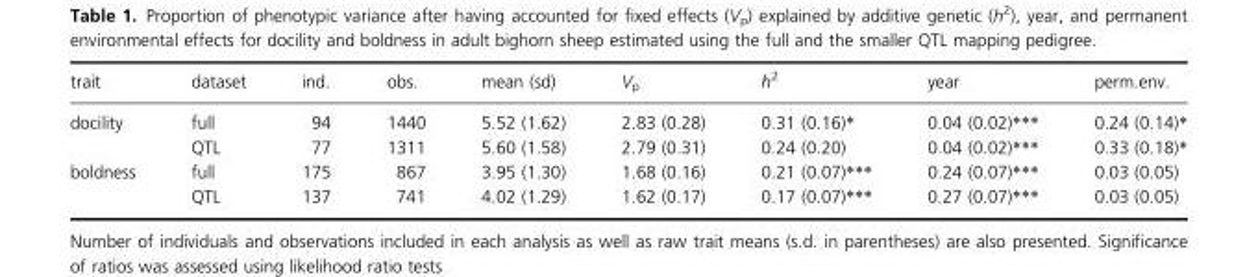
<table><thead><tr><td>trait</td><td>dataset</td><td>ind.</td><td>obs.</td><td>mean (sd)</td><td>V<sub>p</sub></td><td>h<sup>2</sup></td><td>year</td><td>perm.env.</td></tr></thead><tbody><tr><td rowspan="2">docility</td><td>full</td><td>94</td><td>1440</td><td>5.52 (1.62)</td><td>2.83 (0.28)</td><td>0.31 (0.16)*</td><td>0.04 (0.02)***</td><td>0.24 (0.14)*</td></tr><tr><td>QTL</td><td>77</td><td>1311</td><td>5.60 (1.58)</td><td>2.79 (0.31)</td><td>0.24 (0.20)</td><td>0.04 (0.02)***</td><td>0.33 (0.18)*</td></tr><tr><td rowspan="2">boldness</td><td>full</td><td>175</td><td>867</td><td>3.95 (1.30)</td><td>1.68 (0.16)</td><td>0.21 (0.07)***</td><td>0.24 (0.07)***</td><td>0.03 (0.05)</td></tr><tr><td>QTL</td><td>137</td><td>741</td><td>4.02 (1.29)</td><td>1.62 (0.17)</td><td>0.17 (0.07)***</td><td>0.27 (0.07)***</td><td>0.03 (0.05)</td></tr></tbody></table>